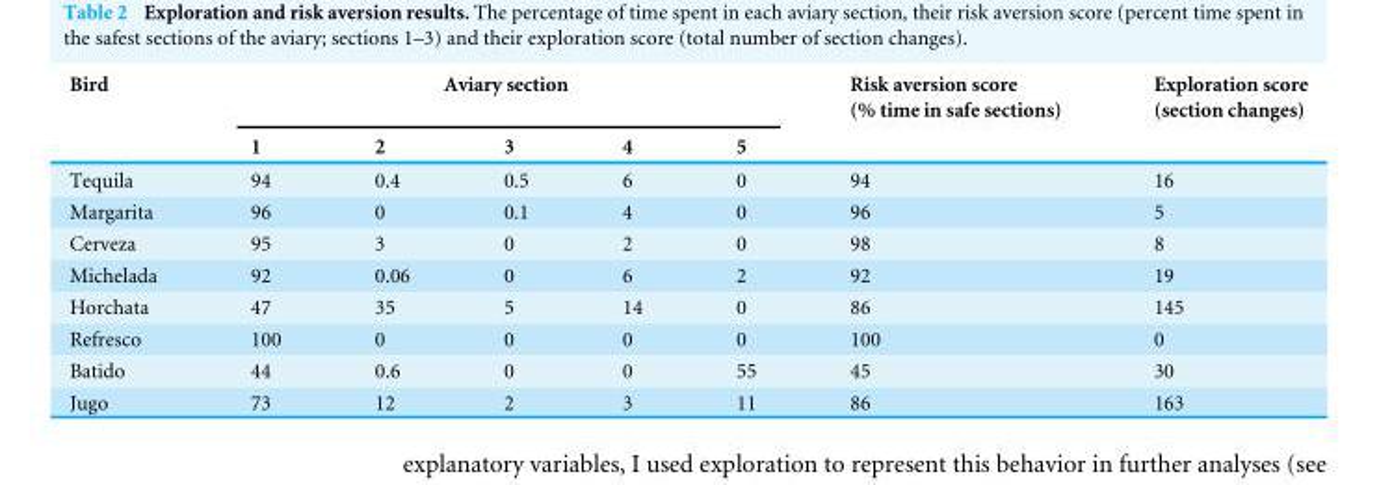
<table><thead><tr><td rowspan="2">Bird</td><td colspan="5">Aviary section</td><td rowspan="2">Risk aversion score (% time in safe sections)</td><td rowspan="2">Exploration score (section changes)</td></tr><tr><td>1</td><td>2</td><td>3</td><td>4</td><td>5</td></tr></thead><tbody><tr><td>Tequila</td><td>94</td><td>0.4</td><td>0.5</td><td>6</td><td>0</td><td>94</td><td>16</td></tr><tr><td>Margarita</td><td>96</td><td>0</td><td>0.1</td><td>4</td><td>0</td><td>96</td><td>5</td></tr><tr><td>Cerveza</td><td>95</td><td>3</td><td>0</td><td>2</td><td>0</td><td>98</td><td>8</td></tr><tr><td>Michelada</td><td>92</td><td>0.06</td><td>0</td><td>6</td><td>2</td><td>92</td><td>19</td></tr><tr><td>Horchata</td><td>47</td><td>35</td><td>5</td><td>14</td><td>0</td><td>86</td><td>145</td></tr><tr><td>Refresco</td><td>100</td><td>0</td><td>0</td><td>0</td><td>0</td><td>100</td><td>0</td></tr><tr><td>Batido</td><td>44</td><td>0.6</td><td>0</td><td>0</td><td>55</td><td>45</td><td>30</td></tr><tr><td>Jugo</td><td>73</td><td>12</td><td>2</td><td>3</td><td>11</td><td>86</td><td>163</td></tr></tbody></table>